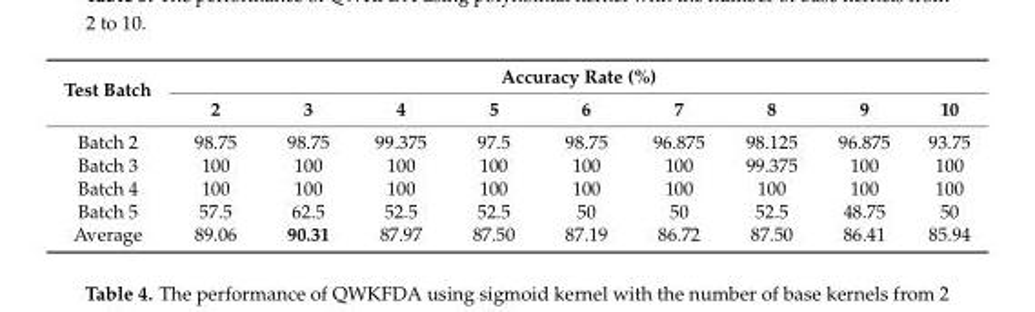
<table><thead><tr><td rowspan="2">Test Batch</td><td colspan="9">Accuracy Rate (%)</td></tr><tr><td>2</td><td>3</td><td>4</td><td>5</td><td>6</td><td>7</td><td>8</td><td>9</td><td>10</td></tr></thead><tbody><tr><td>Batch 2</td><td>98.75</td><td>98.75</td><td>99.375</td><td>97.5</td><td>98.75</td><td>96.875</td><td>98.125</td><td>96.875</td><td>93.75</td></tr><tr><td>Batch 3</td><td>100</td><td>100</td><td>100</td><td>100</td><td>100</td><td>100</td><td>99.375</td><td>100</td><td>100</td></tr><tr><td>Batch 4</td><td>100</td><td>100</td><td>100</td><td>100</td><td>100</td><td>100</td><td>100</td><td>100</td><td>100</td></tr><tr><td>Batch 5</td><td>57.5</td><td>62.5</td><td>52.5</td><td>52.5</td><td>50</td><td>50</td><td>52.5</td><td>48.75</td><td>50</td></tr><tr><td>Average</td><td>89.06</td><td>90.31</td><td>87.97</td><td>87.50</td><td>87.19</td><td>86.72</td><td>87.50</td><td>86.41</td><td>85.94</td></tr></tbody></table>